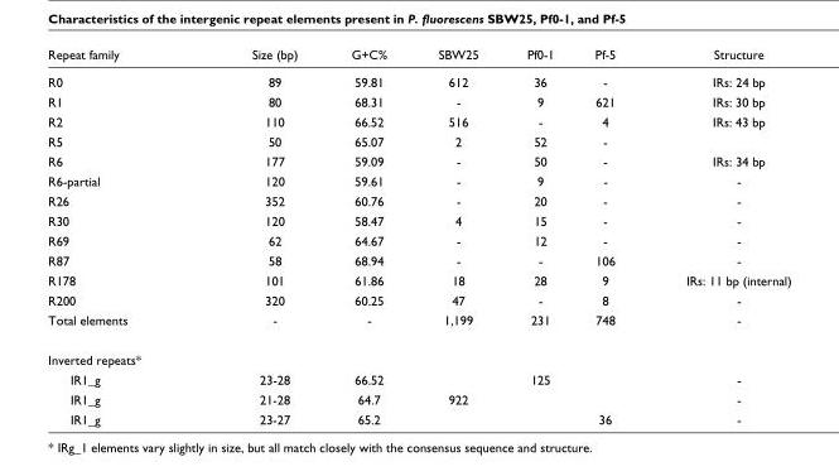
<table><thead><tr><td>Repeat family</td><td>Size (bp)</td><td>G+C%</td><td>SBW25</td><td>Pf0-1</td><td>Pf-5</td><td>Structure</td></tr></thead><tbody><tr><td>R0</td><td>89</td><td>59.81</td><td>612</td><td>36</td><td>-</td><td>IRs: 24 bp</td></tr><tr><td>R1</td><td>80</td><td>68.31</td><td>-</td><td>9</td><td>621</td><td>IRs: 30 bp</td></tr><tr><td>R2</td><td>110</td><td>66.52</td><td>516</td><td>-</td><td>4</td><td>IRs: 43 bp</td></tr><tr><td>R5</td><td>50</td><td>65.07</td><td>2</td><td>52</td><td>-</td><td></td></tr><tr><td>R6</td><td>177</td><td>59.09</td><td>-</td><td>50</td><td>-</td><td>IRs: 34 bp</td></tr><tr><td>R6-partial</td><td>120</td><td>59.61</td><td>-</td><td>9</td><td>-</td><td>-</td></tr><tr><td>R26</td><td>352</td><td>60.76</td><td>-</td><td>20</td><td>-</td><td>-</td></tr><tr><td>R30</td><td>120</td><td>58.47</td><td>4</td><td>15</td><td>-</td><td>-</td></tr><tr><td>R69</td><td>62</td><td>64.67</td><td>-</td><td>12</td><td>-</td><td>-</td></tr><tr><td>R87</td><td>58</td><td>68.94</td><td>-</td><td>-</td><td>106</td><td>-</td></tr><tr><td>R178</td><td>101</td><td>61.86</td><td>18</td><td>28</td><td>9</td><td>IRs: 11 bp (internal)</td></tr><tr><td>R200</td><td>320</td><td>60.25</td><td>47</td><td>-</td><td>8</td><td>-</td></tr><tr><td>Total elements</td><td>-</td><td>-</td><td>1,199</td><td>231</td><td>748</td><td>-</td></tr><tr><td colspan="7">Inverted repeats*</td></tr><tr><td>IR1_g</td><td>23-28</td><td>66.52</td><td></td><td>125</td><td></td><td>-</td></tr><tr><td>IR1_g</td><td>21-28</td><td>64.7</td><td>922</td><td></td><td></td><td>-</td></tr><tr><td>IR1_g</td><td>23-27</td><td>65.2</td><td></td><td></td><td>36</td><td>-</td></tr></tbody></table>